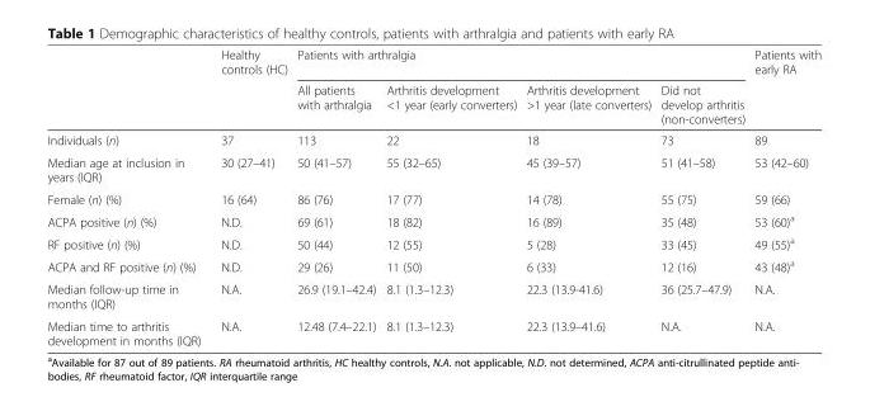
<table><thead><tr><td rowspan="2"></td><td rowspan="2">Healthy controls (HC)</td><td colspan="4">Patients with arthralgia</td><td rowspan="2">Patients with early RA</td></tr><tr><td>All patients with arthralgia</td><td>Arthritis development &lt;1 year (early converters)</td><td>Arthritis development &gt;1 year (late converters)</td><td>Did not develop arthritis (non-converters)</td></tr></thead><tbody><tr><td>Individuals (n)</td><td>37</td><td>113</td><td>22</td><td>18</td><td>73</td><td>89</td></tr><tr><td>Median age at inclusion in years (IQR)</td><td>30 (27–41)</td><td>50 (41–57)</td><td>55 (32–65)</td><td>45 (39–57)</td><td>51 (41–58)</td><td>53 (42–60)</td></tr><tr><td>Female (n) (%)</td><td>16 (64)</td><td>86 (76)</td><td>17 (77)</td><td>14 (78)</td><td>55 (75)</td><td>59 (66)</td></tr><tr><td>ACPA positive (n) (%)</td><td>N.D.</td><td>69 (61)</td><td>18 (82)</td><td>16 (89)</td><td>35 (48)</td><td>53 (60)<sup>a</sup></td></tr><tr><td>RF positive (n) (%)</td><td>N.D.</td><td>50 (44)</td><td>12 (55)</td><td>5 (28)</td><td>33 (45)</td><td>49 (55)<sup>a</sup></td></tr><tr><td>ACPA and RF positive (n) (%)</td><td>N.D.</td><td>29 (26)</td><td>11 (50)</td><td>6 (33)</td><td>12 (16)</td><td>43 (48)<sup>a</sup></td></tr><tr><td>Median follow-up time in months (IQR)</td><td>N.A.</td><td>26.9 (19.1–42.4)</td><td>8.1 (1.3–12.3)</td><td>22.3 (13.9-41.6)</td><td>36 (25.7–47.9)</td><td>N.A.</td></tr><tr><td>Median time to arthritis development in months (IQR)</td><td>N.A.</td><td>12.48 (7.4–22.1)</td><td>8.1 (1.3–12.3)</td><td>22.3 (13.9–41.6)</td><td>N.A.</td><td>N.A.</td></tr></tbody></table>